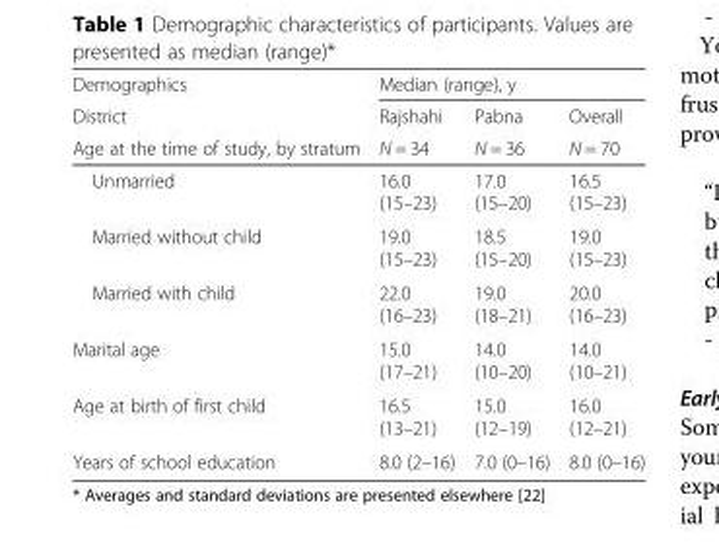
<table><thead><tr><td rowspan="3">Demographics District Age at the time of study, by stratum</td><td colspan="3">Median (range), y</td></tr><tr><td rowspan="2">Rajshahi N = 34</td><td rowspan="2">Pabna N = 36</td><td rowspan="2">Overall N = 70</td></tr><tr></tr></thead><tbody><tr><td>Unmarried</td><td>16.0 (15–23)</td><td>17.0 (15–20)</td><td>16.5 (15–23)</td></tr><tr><td>Married without child</td><td>19.0 (15–23)</td><td>18.5 (15–20)</td><td>19.0 (15–23)</td></tr><tr><td>Married with child</td><td>22.0 (16–23)</td><td>19.0 (18–21)</td><td>20.0 (16–23)</td></tr><tr><td>Marital age</td><td>15.0 (17–21)</td><td>14.0 (10–20)</td><td>14.0 (10–21)</td></tr><tr><td>Age at birth of first child</td><td>16.5 (13–21)</td><td>15.0 (12–19)</td><td>16.0 (12–21)</td></tr><tr><td>Years of school education</td><td>8.0 (2–16)</td><td>7.0 (0–16)</td><td>8.0 (0–16)</td></tr></tbody></table>